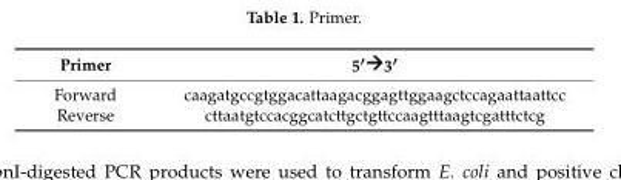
<table><thead><tr><td>Primer</td><td>5′ 3′</td></tr></thead><tbody><tr><td>Forward</td><td>caagatgccgtggacattaagacggagttggaagctccagaattaattcc</td></tr><tr><td>Reverse</td><td>cttaatgtccacggcatcttgctgttccaagtttaagtcgatttctcg</td></tr></tbody></table>